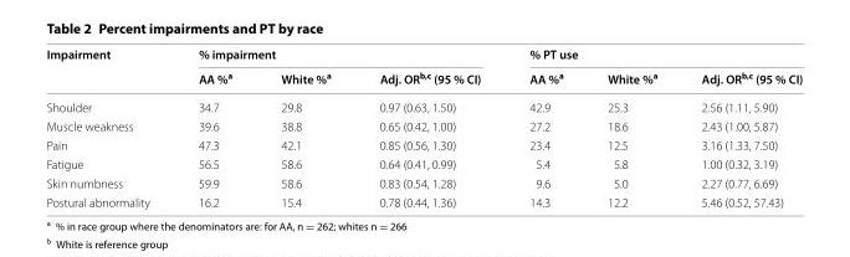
<table><thead><tr><td rowspan="2">Impairment</td><td colspan="3">% impairment</td><td colspan="3">% PT use</td></tr><tr><td>AA %<sup>a</sup></td><td>White %<sup>a</sup></td><td>Adj. OR<sup>b,c</sup> (95 % CI)</td><td>AA %<sup>a</sup></td><td>White %<sup>a</sup></td><td>Adj. OR<sup>b,c</sup> (95 % CI)</td></tr></thead><tbody><tr><td>Shoulder</td><td>34.7</td><td>29.8</td><td>0.97 (0.63, 1.50)</td><td>42.9</td><td>25.3</td><td>2.56 (1.11, 5.90)</td></tr><tr><td>Muscle weakness</td><td>39.6</td><td>38.8</td><td>0.65 (0.42, 1.00)</td><td>27.2</td><td>18.6</td><td>2.43 (1.00, 5.87)</td></tr><tr><td>Pain</td><td>47.3</td><td>42.1</td><td>0.85 (0.56, 1.30)</td><td>23.4</td><td>12.5</td><td>3.16 (1.33, 7.50)</td></tr><tr><td>Fatigue</td><td>56.5</td><td>58.6</td><td>0.64 (0.41, 0.99)</td><td>5.4</td><td>5.8</td><td>1.00 (0.32, 3.19)</td></tr><tr><td>Skin numbness</td><td>59.9</td><td>58.6</td><td>0.83 (0.54, 1.28)</td><td>9.6</td><td>5.0</td><td>2.27 (0.77, 6.69)</td></tr><tr><td>Postural abnormality</td><td>16.2</td><td>15.4</td><td>0.78 (0.44, 1.36)</td><td>14.3</td><td>12.2</td><td>5.46 (0.52, 57.43)</td></tr></tbody></table>